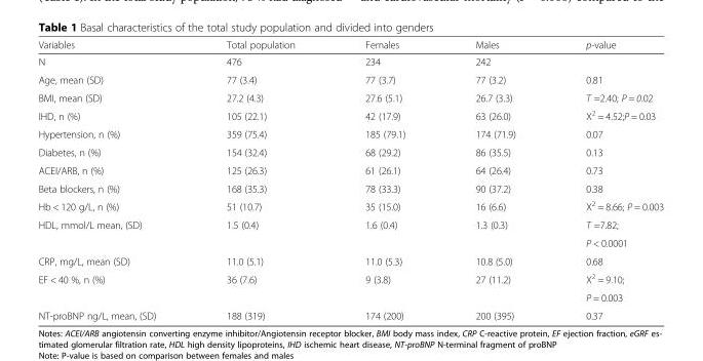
<table><thead><tr><td>Variables</td><td>Total population</td><td>Females</td><td>Males</td><td>p-value</td></tr></thead><tbody><tr><td>N</td><td>476</td><td>234</td><td>242</td><td></td></tr><tr><td>Age, mean (SD)</td><td>77 (3.4)</td><td>77 (3.7)</td><td>77 (3.2)</td><td>0.81</td></tr><tr><td>BMI, mean (SD)</td><td>27.2 (4.3)</td><td>27.6 (5.1)</td><td>26.7 (3.3)</td><td>T =2.40; P = 0.02</td></tr><tr><td>IHD, n (%)</td><td>105 (22.1)</td><td>42 (17.9)</td><td>63 (26.0)</td><td>X<sup>2</sup> = 4.52;P = 0.03</td></tr><tr><td>Hypertension, n (%)</td><td>359 (75.4)</td><td>185 (79.1)</td><td>174 (71.9)</td><td>0.07</td></tr><tr><td>Diabetes, n (%)</td><td>154 (32.4)</td><td>68 (29.2)</td><td>86 (35.5)</td><td>0.13</td></tr><tr><td>ACEI/ARB, n (%)</td><td>125 (26.3)</td><td>61 (26.1)</td><td>64 (26.4)</td><td>0.73</td></tr><tr><td>Beta blockers, n (%)</td><td>168 (35.3)</td><td>78 (33.3)</td><td>90 (37.2)</td><td>0.38</td></tr><tr><td>Hb &lt; 120 g/L, n (%)</td><td>51 (10.7)</td><td>35 (15.0)</td><td>16 (6.6)</td><td>X<sup>2</sup> = 8.66; P = 0.003</td></tr><tr><td rowspan="2">HDL, mmol/L mean, (SD)</td><td rowspan="2">1.5 (0.4)</td><td rowspan="2">1.6 (0.4)</td><td rowspan="2">1.3 (0.3)</td><td>T =7.82;</td></tr><tr><td>P &lt; 0.0001</td></tr><tr><td>CRP, mg/L, mean (SD)</td><td>11.0 (5.1)</td><td>11.0 (5.3)</td><td>10.8 (5.0)</td><td>0.68</td></tr><tr><td rowspan="2">EF &lt; 40 %, n (%)</td><td rowspan="2">36 (7.6)</td><td rowspan="2">9 (3.8)</td><td rowspan="2">27 (11.2)</td><td>X<sup>2</sup> = 9.10;</td></tr><tr><td>P = 0.003</td></tr><tr><td>NT-proBNP ng/L, mean, (SD)</td><td>188 (319)</td><td>174 (200)</td><td>200 (395)</td><td>0.37</td></tr></tbody></table>